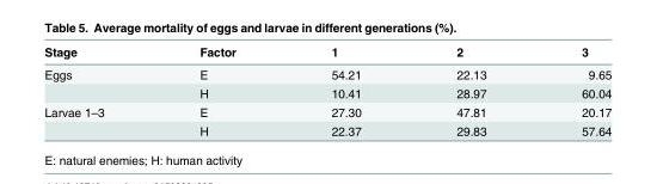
<table><thead><tr><td>Stage</td><td>Factor</td><td>1</td><td>2</td><td>3</td></tr></thead><tbody><tr><td rowspan="2">Eggs</td><td>E</td><td>54.21</td><td>22.13</td><td>9.65</td></tr><tr><td>H</td><td>10.41</td><td>28.97</td><td>60.04</td></tr><tr><td rowspan="2">Larvae 1–3</td><td>E</td><td>27.30</td><td>47.81</td><td>20.17</td></tr><tr><td>H</td><td>22.37</td><td>29.83</td><td>57.64</td></tr></tbody></table>